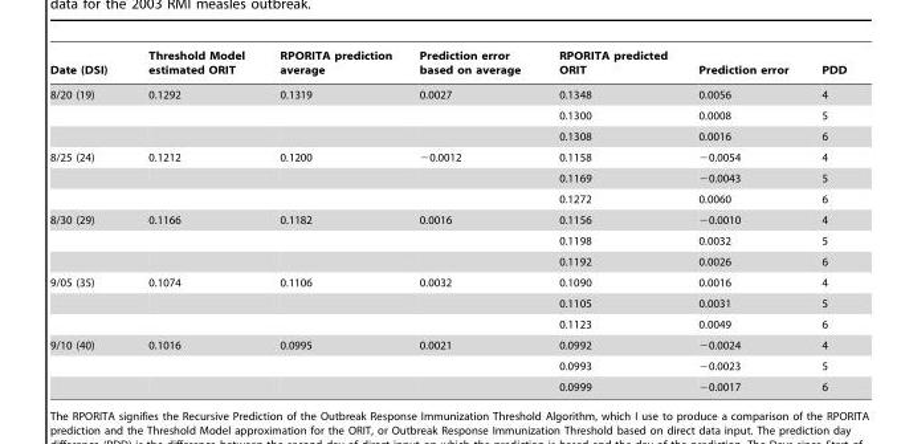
<table><thead><tr><td>Date (DSI)</td><td>Threshold Model estimated ORIT</td><td>RPORITA prediction average</td><td>Prediction error based on average</td><td>RPORITA predicted ORIT</td><td>Prediction error</td><td>PDD</td></tr></thead><tbody><tr><td rowspan="3">8/20 (19)</td><td>0.1292</td><td>0.1319</td><td>0.0027</td><td>0.1348</td><td>0.0056</td><td>4</td></tr><tr><td></td><td></td><td></td><td>0.1300</td><td>0.0008</td><td>5</td></tr><tr><td></td><td></td><td></td><td>0.1308</td><td>0.0016</td><td>6</td></tr><tr><td rowspan="3">8/25 (24)</td><td>0.1212</td><td>0.1200</td><td>−0.0012</td><td>0.1158</td><td>−0.0054</td><td>4</td></tr><tr><td></td><td></td><td></td><td>0.1169</td><td>−0.0043</td><td>5</td></tr><tr><td></td><td></td><td></td><td>0.1272</td><td>0.0060</td><td>6</td></tr><tr><td rowspan="3">8/30 (29)</td><td>0.1166</td><td>0.1182</td><td>0.0016</td><td>0.1156</td><td>−0.0010</td><td>4</td></tr><tr><td></td><td></td><td></td><td>0.1198</td><td>0.0032</td><td>5</td></tr><tr><td></td><td></td><td></td><td>0.1192</td><td>0.0026</td><td>6</td></tr><tr><td rowspan="3">9/05 (35)</td><td>0.1074</td><td>0.1106</td><td>0.0032</td><td>0.1090</td><td>0.0016</td><td>4</td></tr><tr><td></td><td></td><td></td><td>0.1105</td><td>0.0031</td><td>5</td></tr><tr><td></td><td></td><td></td><td>0.1123</td><td>0.0049</td><td>6</td></tr><tr><td rowspan="3">9/10 (40)</td><td>0.1016</td><td>0.0995</td><td>0.0021</td><td>0.0992</td><td>−0.0024</td><td>4</td></tr><tr><td></td><td></td><td></td><td>0.0993</td><td>−0.0023</td><td>5</td></tr><tr><td></td><td></td><td></td><td>0.0999</td><td>−0.0017</td><td>6</td></tr></tbody></table>